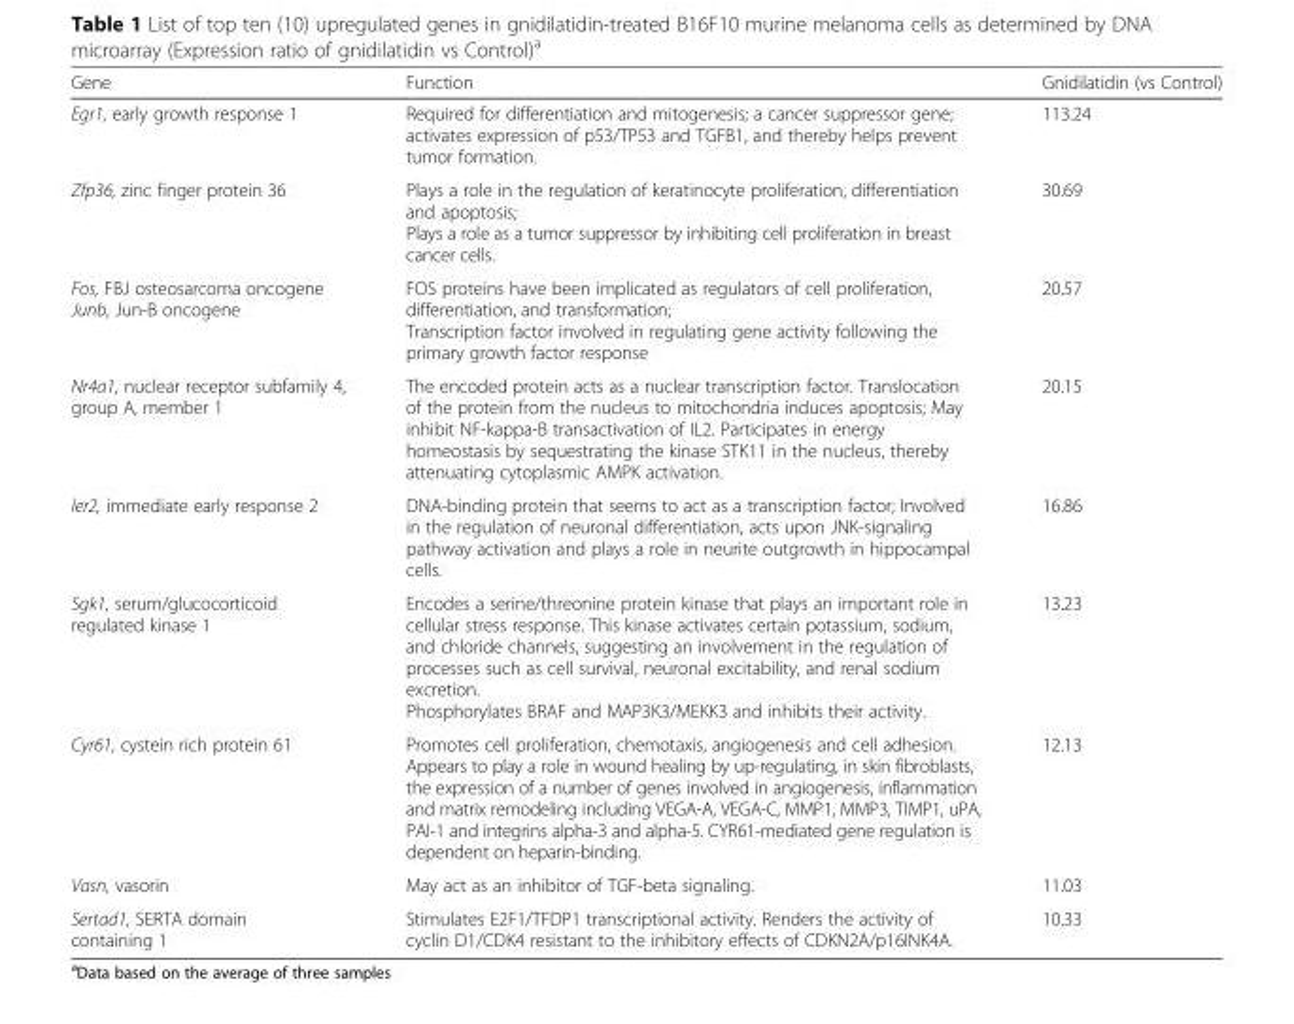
<table><thead><tr><td>Gene</td><td>Function</td><td>Gnidilatidin (vs Control)</td></tr></thead><tbody><tr><td>Egr1, early growth response 1</td><td>Required for differentiation and mitogenesis; a cancer suppressor gene; activates expression of p53/TP53 and TGFB1, and thereby helps prevent tumor formation.</td><td>113.24</td></tr><tr><td>Zfp36, zinc finger protein 36</td><td>Plays a role in the regulation of keratinocyte proliferation, differentiation and apoptosis; Plays a role as a tumor suppressor by inhibiting cell proliferation in breast cancer cells.</td><td>30.69</td></tr><tr><td>Fos, FBJ osteosarcoma oncogene Junb, Jun-B oncogene</td><td>FOS proteins have been implicated as regulators of cell proliferation, differentiation, and transformation; Transcription factor involved in regulating gene activity following the primary growth factor response</td><td>20.57</td></tr><tr><td>Nr4a1, nuclear receptor subfamily 4, group A, member 1</td><td>The encoded protein acts as a nuclear transcription factor. Translocation of the protein from the nucleus to mitochondria induces apoptosis; May inhibit NF-kappa-B transactivation of IL2. Participates in energy homeostasis by sequestrating the kinase STK11 in the nucleus, thereby attenuating cytoplasmic AMPK activation.</td><td>20.15</td></tr><tr><td>Ier2, immediate early response 2</td><td>DNA-binding protein that seems to act as a transcription factor; Involved in the regulation of neuronal differentiation, acts upon JNK-signaling pathway activation and plays a role in neurite outgrowth in hippocampal cells.</td><td>16.86</td></tr><tr><td>Sgk1, serum/glucocorticoid regulated kinase 1</td><td>Encodes a serine/threonine protein kinase that plays an important role in cellular stress response. This kinase activates certain potassium, sodium, and chloride channels, suggesting an involvement in the regulation of processes such as cell survival, neuronal excitability, and renal sodium excretion. Phosphorylates BRAF and MAP3K3/MEKK3 and inhibits their activity.</td><td>13.23</td></tr><tr><td>Cyr61, cystein rich protein 61</td><td>Promotes cell proliferation, chemotaxis, angiogenesis and cell adhesion. Appears to play a role in wound healing by up-regulating, in skin fibroblasts, the expression of a number of genes involved in angiogenesis, inflammation and matrix remodeling including VEGA-A, VEGA-C, MMP1, MMP3, TIMP1, uPA, PAI-1 and integrins alpha-3 and alpha-5. CYR61-mediated gene regulation is dependent on heparin-binding.</td><td>12.13</td></tr><tr><td>Vasn, vasorin</td><td>May act as an inhibitor of TGF-beta signaling.</td><td>11.03</td></tr><tr><td>Sertad1, SERTA domain containing 1</td><td>Stimulates E2F1/TFDP1 transcriptional activity. Renders the activity of cyclin D1/CDK4 resistant to the inhibitory effects of CDKN2A/p16INK4A.</td><td>10.33</td></tr></tbody></table>